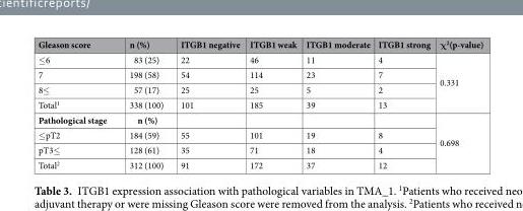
<table><thead><tr><td>Gleason score</td><td>n (%)</td><td>ITGB1 negative</td><td>ITGB1 weak</td><td>ITGB1 moderate</td><td>ITGB1 strong</td><td>χ<sup>2</sup>(p-value)</td></tr></thead><tbody><tr><td>≤6</td><td>83 (25)</td><td>22</td><td>46</td><td>11</td><td>4</td><td rowspan="4">0.331</td></tr><tr><td>7</td><td>198 (58)</td><td>54</td><td>114</td><td>23</td><td>7</td></tr><tr><td>8≤</td><td>57 (17)</td><td>25</td><td>25</td><td>5</td><td>2</td></tr><tr><td>Total<sup>1</sup></td><td>338 (100)</td><td>101</td><td>185</td><td>39</td><td>13</td></tr><tr><td>Pathological stage</td><td>n (%)</td><td></td><td></td><td></td><td></td><td rowspan="4">0.698</td></tr><tr><td>≤pT2</td><td>184 (59)</td><td>55</td><td>101</td><td>19</td><td>8</td></tr><tr><td>pT3≤</td><td>128 (61)</td><td>35</td><td>71</td><td>18</td><td>4</td></tr><tr><td>Total<sup>2</sup></td><td>312 (100)</td><td>91</td><td>172</td><td>37</td><td>12</td></tr></tbody></table>